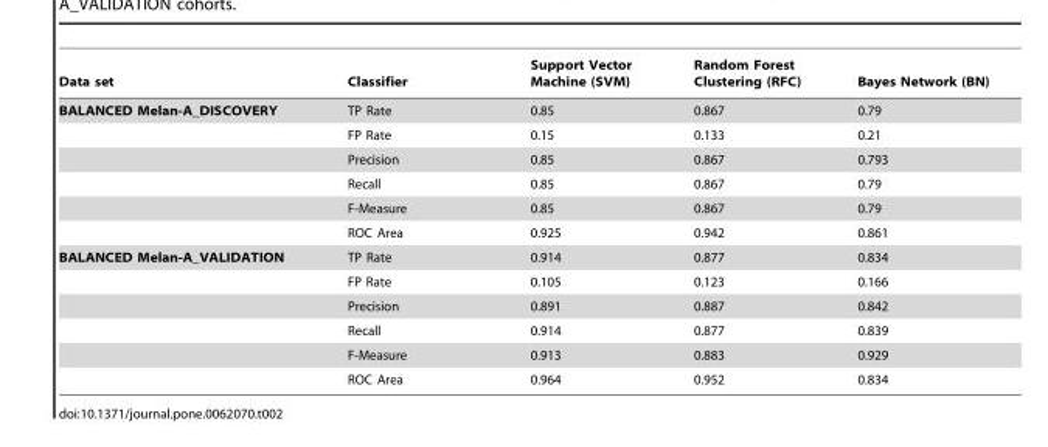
<table><thead><tr><td>Data set</td><td>Classifier</td><td>Support Vector Machine (SVM)</td><td>Random Forest Clustering (RFC)</td><td>Bayes Network (BN)</td></tr></thead><tbody><tr><td rowspan="6">BALANCED Melan-A_DISCOVERY</td><td>TP Rate</td><td>0.85</td><td>0.867</td><td>0.79</td></tr><tr><td>FP Rate</td><td>0.15</td><td>0.133</td><td>0.21</td></tr><tr><td>Precision</td><td>0.85</td><td>0.867</td><td>0.793</td></tr><tr><td>Recall</td><td>0.85</td><td>0.867</td><td>0.79</td></tr><tr><td>F-Measure</td><td>0.85</td><td>0.867</td><td>0.79</td></tr><tr><td>ROC Area</td><td>0.925</td><td>0.942</td><td>0.861</td></tr><tr><td rowspan="6">BALANCED Melan-A_VALIDATION</td><td>TP Rate</td><td>0.914</td><td>0.877</td><td>0.834</td></tr><tr><td>FP Rate</td><td>0.105</td><td>0.123</td><td>0.166</td></tr><tr><td>Precision</td><td>0.891</td><td>0.887</td><td>0.842</td></tr><tr><td>Recall</td><td>0.914</td><td>0.877</td><td>0.839</td></tr><tr><td>F-Measure</td><td>0.913</td><td>0.883</td><td>0.929</td></tr><tr><td>ROC Area</td><td>0.964</td><td>0.952</td><td>0.834</td></tr></tbody></table>